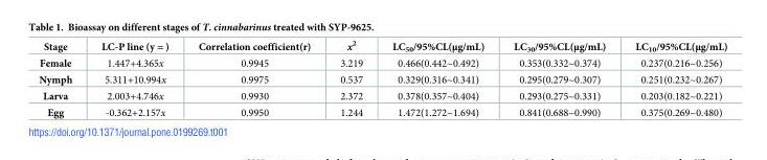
<table><thead><tr><td>Stage</td><td>LC-P line (y = )</td><td>Correlation coefficient(r)</td><td>x<sup>2</sup></td><td>LC<sub>50</sub>/95%CL(μg/mL)</td><td>LC<sub>30</sub>/95%CL(μg/mL)</td><td>LC<sub>10</sub>/95%CL(μg/mL)</td></tr></thead><tbody><tr><td>Female</td><td>1.447+4.365x</td><td>0.9945</td><td>3.219</td><td>0.466(0.442~0.492)</td><td>0.353(0.332~0.374)</td><td>0.237(0.216~0.256)</td></tr><tr><td>Nymph</td><td>5.311+10.994x</td><td>0.9975</td><td>0.537</td><td>0.329(0.316~0.341)</td><td>0.295(0.279~0.307)</td><td>0.251(0.232~0.267)</td></tr><tr><td>Larva</td><td>2.003+4.746x</td><td>0.9930</td><td>2.372</td><td>0.378(0.357~0.404)</td><td>0.293(0.275~0.331)</td><td>0.203(0.182~0.221)</td></tr><tr><td>Egg</td><td>-0.362+2.157x</td><td>0.9950</td><td>1.244</td><td>1.472(1.272~1.694)</td><td>0.841(0.688~0.990)</td><td>0.375(0.269~0.480)</td></tr></tbody></table>